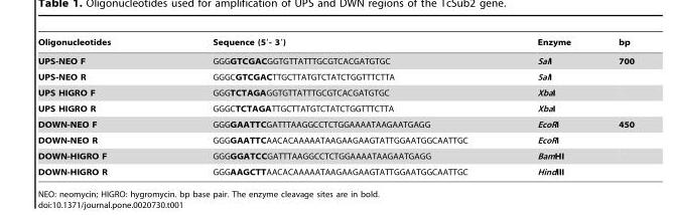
<table><thead><tr><td>Oligonucleotides</td><td>Sequence (5′- 3′)</td><td>Enzyme</td><td>bp</td></tr></thead><tbody><tr><td>UPS-NEO F</td><td>GGGGTCGACGGTGTTATTTGCGTCACGATGTGC</td><td>SalI</td><td>700</td></tr><tr><td>UPS-NEO R</td><td>GGGCGTCGACTTGCTTATGTCTATCTGGTTTCTTA</td><td>SalI</td><td></td></tr><tr><td>UPS HIGRO F</td><td>GGGTCTAGAGGTGTTATTTGCGTCACGATGTGC</td><td>XbaI</td><td></td></tr><tr><td>UPS HIGRO R</td><td>GGGCTCTAGATTGCTTATGTCTATCTGGTTTCTTA</td><td>XbaI</td><td></td></tr><tr><td>DOWN-NEO F</td><td>GGGGAATTCGATTTAAGGCCTCTGGAAAATAAGAATGAGG</td><td>EcoRI</td><td>450</td></tr><tr><td>DOWN-NEO R</td><td>GGGGAATTCAACACAAAAATAAGAAGAAGTATTGGAATGGCAATTGC</td><td>EcoRI</td><td></td></tr><tr><td>DOWN-HIGRO F</td><td>GGGGGATCCGATTTAAGGCCTCTGGAAAATAAGAATGAGG</td><td>BamHI</td><td></td></tr><tr><td>DOWN-HIGRO R</td><td>GGGAAGCTTAACACAAAAATAAGAAGAAGTATTGGAATGGCAATTGC</td><td>HindIII</td><td></td></tr></tbody></table>